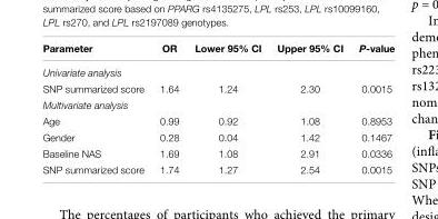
<table><thead><tr><td>Parameter</td><td>OR</td><td>Lower 95% CI</td><td>Upper 95% CI</td><td>P-value</td></tr></thead><tbody><tr><td colspan="5">Univariate analysis</td></tr><tr><td>SNP summarized score</td><td>1.64</td><td>1.24</td><td>2.30</td><td>0.0015</td></tr><tr><td colspan="5">Multivariate analysis</td></tr><tr><td>Age</td><td>0.99</td><td>0.92</td><td>1.08</td><td>0.8953</td></tr><tr><td>Gender</td><td>0.28</td><td>0.04</td><td>1.42</td><td>0.1467</td></tr><tr><td>Baseline NAS</td><td>1.69</td><td>1.08</td><td>2.91</td><td>0.0336</td></tr><tr><td>SNP summarized score</td><td>1.74</td><td>1.27</td><td>2.54</td><td>0.0015</td></tr></tbody></table>